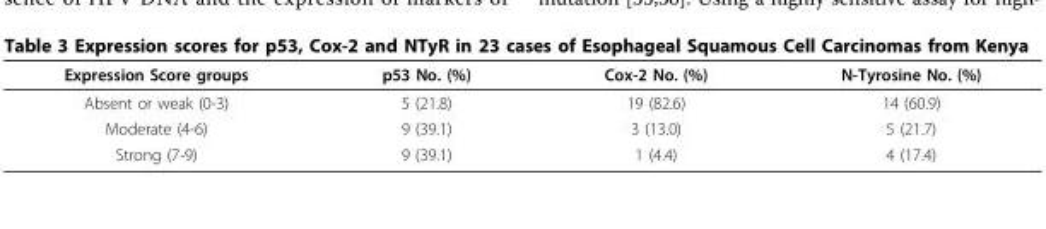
<table><thead><tr><td>Expression Score groups</td><td>p53 No. (%)</td><td>Cox-2 No. (%)</td><td>N-Tyrosine No. (%)</td></tr></thead><tbody><tr><td>Absent or weak (0-3)</td><td>5 (21.8)</td><td>19 (82.6)</td><td>14 (60.9)</td></tr><tr><td>Moderate (4-6)</td><td>9 (39.1)</td><td>3 (13.0)</td><td>5 (21.7)</td></tr><tr><td>Strong (7-9)</td><td>9 (39.1)</td><td>1 (4.4)</td><td>4 (17.4)</td></tr></tbody></table>